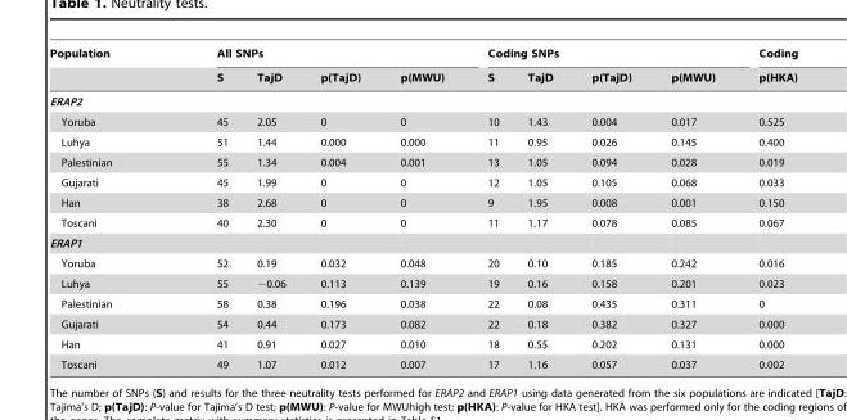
<table><thead><tr><td rowspan="2">Population</td><td colspan="4">All SNPs</td><td colspan="4">Coding SNPs</td><td rowspan="2">Coding p(HKA)</td></tr><tr><td>S</td><td>TajD</td><td>p(TajD)</td><td>p(MWU)</td><td>S</td><td>TajD</td><td>p(TajD)</td><td>p(MWU)</td></tr></thead><tbody><tr><td colspan="10">ERAP2</td></tr><tr><td>Yoruba</td><td>45</td><td>2.05</td><td>0</td><td>0</td><td>10</td><td>1.43</td><td>0.004</td><td>0.017</td><td>0.525</td></tr><tr><td>Luhya</td><td>51</td><td>1.44</td><td>0.000</td><td>0.000</td><td>11</td><td>0.95</td><td>0.026</td><td>0.145</td><td>0.400</td></tr><tr><td>Palestinian</td><td>55</td><td>1.34</td><td>0.004</td><td>0.001</td><td>13</td><td>1.05</td><td>0.094</td><td>0.028</td><td>0.019</td></tr><tr><td>Gujarati</td><td>45</td><td>1.99</td><td>0</td><td>0</td><td>12</td><td>1.05</td><td>0.105</td><td>0.068</td><td>0.033</td></tr><tr><td>Han</td><td>38</td><td>2.68</td><td>0</td><td>0</td><td>9</td><td>1.95</td><td>0.008</td><td>0.001</td><td>0.150</td></tr><tr><td>Toscani</td><td>40</td><td>2.30</td><td>0</td><td>0</td><td>11</td><td>1.17</td><td>0.078</td><td>0.085</td><td>0.067</td></tr><tr><td colspan="10">ERAP1</td></tr><tr><td>Yoruba</td><td>52</td><td>0.19</td><td>0.032</td><td>0.048</td><td>20</td><td>0.10</td><td>0.185</td><td>0.242</td><td>0.016</td></tr><tr><td>Luhya</td><td>55</td><td>−0.06</td><td>0.113</td><td>0.139</td><td>19</td><td>0.16</td><td>0.158</td><td>0.201</td><td>0.023</td></tr><tr><td>Palestinian</td><td>58</td><td>0.38</td><td>0.196</td><td>0.038</td><td>22</td><td>0.08</td><td>0.435</td><td>0.311</td><td>0</td></tr><tr><td>Gujarati</td><td>54</td><td>0.44</td><td>0.173</td><td>0.082</td><td>22</td><td>0.18</td><td>0.382</td><td>0.327</td><td>0.000</td></tr><tr><td>Han</td><td>41</td><td>0.91</td><td>0.027</td><td>0.010</td><td>18</td><td>0.55</td><td>0.202</td><td>0.131</td><td>0.000</td></tr><tr><td>Toscani</td><td>49</td><td>1.07</td><td>0.012</td><td>0.007</td><td>17</td><td>1.16</td><td>0.057</td><td>0.037</td><td>0.002</td></tr></tbody></table>